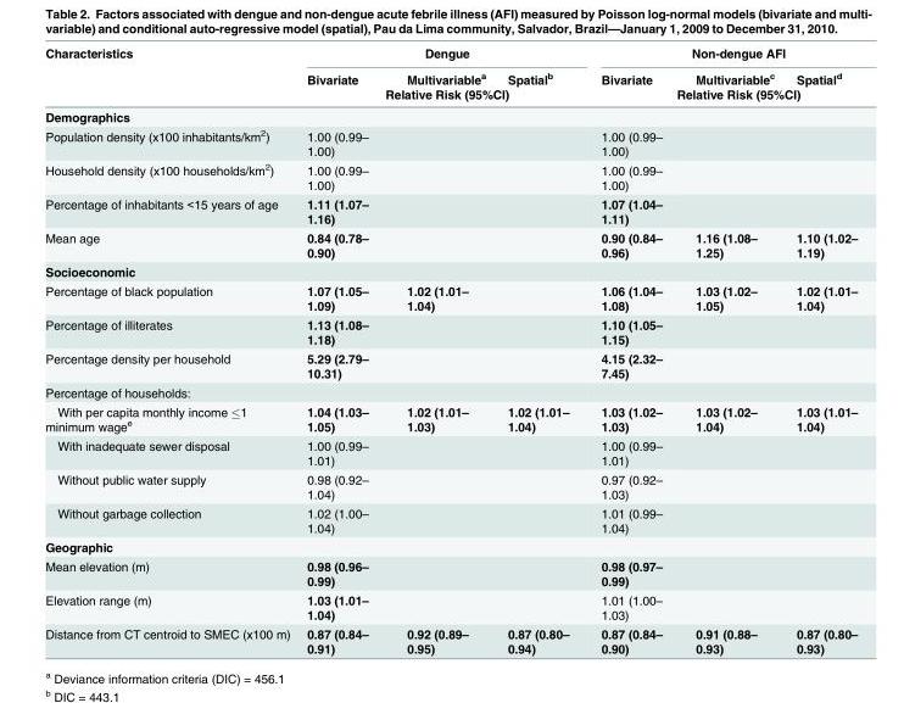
<table><thead><tr><td rowspan="3">Characteristics</td><td colspan="3">Dengue</td><td colspan="3">Non-dengue AFI</td></tr><tr><td>Bivariate</td><td>Multivariable<sup>a</sup></td><td>Spatial<sup>b</sup></td><td>Bivariate</td><td>Multivariable<sup>c</sup></td><td>Spatial<sup>d</sup></td></tr><tr><td colspan="3">Relative Risk (95%CI)</td><td colspan="3">Relative Risk (95%CI)</td></tr></thead><tbody><tr><td colspan="7">Demographics</td></tr><tr><td>Population density (x100 inhabitants/km<sup>2</sup>)</td><td>1.00 (0.99– 1.00)</td><td></td><td></td><td>1.00 (0.99– 1.00)</td><td></td><td></td></tr><tr><td>Household density (x100 households/km<sup>2</sup>)</td><td>1.00 (0.99– 1.00)</td><td></td><td></td><td>1.00 (0.99– 1.00)</td><td></td><td></td></tr><tr><td>Percentage of inhabitants &lt;15 years of age</td><td>1.11 (1.07– 1.16)</td><td></td><td></td><td>1.07 (1.04– 1.11)</td><td></td><td></td></tr><tr><td>Mean age</td><td>0.84 (0.78– 0.90)</td><td></td><td></td><td>0.90 (0.84– 0.96)</td><td>1.16 (1.08– 1.25)</td><td>1.10 (1.02– 1.19)</td></tr><tr><td colspan="7">Socioeconomic</td></tr><tr><td>Percentage of black population</td><td>1.07 (1.05– 1.09)</td><td>1.02 (1.01– 1.04)</td><td></td><td>1.06 (1.04– 1.08)</td><td>1.03 (1.02– 1.05)</td><td>1.02 (1.01– 1.04)</td></tr><tr><td>Percentage of illiterates</td><td>1.13 (1.08– 1.18)</td><td></td><td></td><td>1.10 (1.05– 1.15)</td><td></td><td></td></tr><tr><td>Percentage density per household</td><td>5.29 (2.79– 10.31)</td><td></td><td></td><td>4.15 (2.32– 7.45)</td><td></td><td></td></tr><tr><td colspan="7">Percentage of households:</td></tr><tr><td>With per capita monthly income ≤1 minimum wage<sup>e</sup></td><td>1.04 (1.03– 1.05)</td><td>1.02 (1.01– 1.03)</td><td>1.02 (1.01– 1.04)</td><td>1.03 (1.02– 1.03)</td><td>1.03 (1.02– 1.04)</td><td>1.03 (1.01– 1.04)</td></tr><tr><td>With inadequate sewer disposal</td><td>1.00 (0.99– 1.01)</td><td></td><td></td><td>1.00 (0.99– 1.01)</td><td></td><td></td></tr><tr><td>Without public water supply</td><td>0.98 (0.92– 1.04)</td><td></td><td></td><td>0.97 (0.92– 1.03)</td><td></td><td></td></tr><tr><td>Without garbage collection</td><td>1.02 (1.00– 1.04)</td><td></td><td></td><td>1.01 (0.99– 1.04)</td><td></td><td></td></tr><tr><td colspan="7">Geographic</td></tr><tr><td>Mean elevation (m)</td><td>0.98 (0.96– 0.99)</td><td></td><td></td><td>0.98 (0.97– 0.99)</td><td></td><td></td></tr><tr><td>Elevation range (m)</td><td>1.03 (1.01– 1.04)</td><td></td><td></td><td>1.01 (1.00– 1.03)</td><td></td><td></td></tr><tr><td>Distance from CT centroid to SMEC (x100 m)</td><td>0.87 (0.84– 0.91)</td><td>0.92 (0.89– 0.95)</td><td>0.87 (0.80– 0.94)</td><td>0.87 (0.84– 0.90)</td><td>0.91 (0.88– 0.93)</td><td>0.87 (0.80– 0.93)</td></tr></tbody></table>